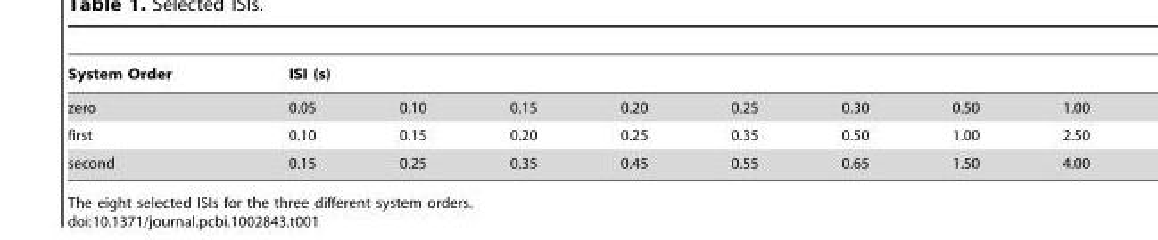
<table><thead><tr><td rowspan="2">System Order zero</td><td colspan="8">ISI (s)</td></tr><tr><td>0.05</td><td>0.10</td><td>0.15</td><td>0.20</td><td>0.25</td><td>0.30</td><td>0.50</td><td>1.00</td></tr></thead><tbody><tr><td>first</td><td>0.10</td><td>0.15</td><td>0.20</td><td>0.25</td><td>0.35</td><td>0.50</td><td>1.00</td><td>2.50</td></tr><tr><td>second</td><td>0.15</td><td>0.25</td><td>0.35</td><td>0.45</td><td>0.55</td><td>0.65</td><td>1.50</td><td>4.00</td></tr></tbody></table>